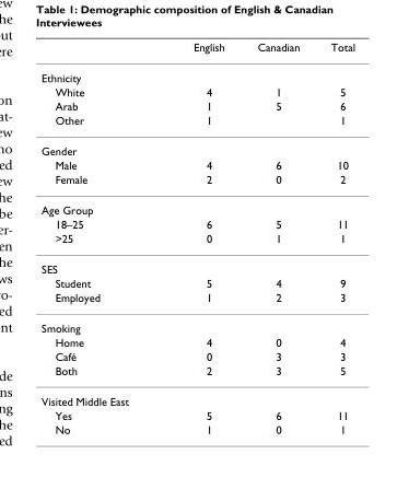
<table><thead><tr><td></td><td>English</td><td>Canadian</td><td>Total</td></tr></thead><tbody><tr><td colspan="4">Ethnicity</td></tr><tr><td>White</td><td>4</td><td>1</td><td>5</td></tr><tr><td>Arab</td><td>1</td><td>5</td><td>6</td></tr><tr><td>Other</td><td>1</td><td></td><td>1</td></tr><tr><td colspan="4">Gender</td></tr><tr><td>Male</td><td>4</td><td>6</td><td>10</td></tr><tr><td>Female</td><td>2</td><td>0</td><td>2</td></tr><tr><td colspan="4">Age Group</td></tr><tr><td>18–25</td><td>6</td><td>5</td><td>11</td></tr><tr><td>&gt;25</td><td>0</td><td>1</td><td>1</td></tr><tr><td colspan="4">SES</td></tr><tr><td>Student</td><td>5</td><td>4</td><td>9</td></tr><tr><td>Employed</td><td>1</td><td>2</td><td>3</td></tr><tr><td colspan="4">Smoking</td></tr><tr><td>Home</td><td>4</td><td>0</td><td>4</td></tr><tr><td>Café</td><td>0</td><td>3</td><td>3</td></tr><tr><td>Both</td><td>2</td><td>3</td><td>5</td></tr><tr><td colspan="4">Visited Middle East</td></tr><tr><td>Yes</td><td>5</td><td>6</td><td>11</td></tr><tr><td>No</td><td>1</td><td>0</td><td>1</td></tr></tbody></table>